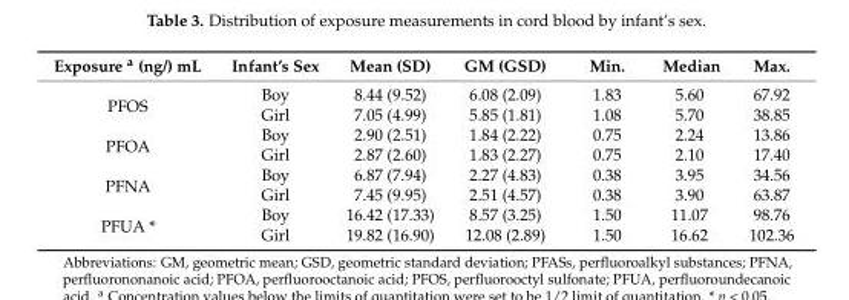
<table><thead><tr><td>Exposure <sup>a</sup> (ng/) mL</td><td>Infant’s Sex</td><td>Mean (SD)</td><td>GM (GSD)</td><td>Min.</td><td>Median</td><td>Max.</td></tr></thead><tbody><tr><td rowspan="2">PFOS</td><td>Boy</td><td>8.44 (9.52)</td><td>6.08 (2.09)</td><td>1.83</td><td>5.60</td><td>67.92</td></tr><tr><td>Girl</td><td>7.05 (4.99)</td><td>5.85 (1.81)</td><td>1.08</td><td>5.70</td><td>38.85</td></tr><tr><td rowspan="2">PFOA</td><td>Boy</td><td>2.90 (2.51)</td><td>1.84 (2.22)</td><td>0.75</td><td>2.24</td><td>13.86</td></tr><tr><td>Girl</td><td>2.87 (2.60)</td><td>1.83 (2.27)</td><td>0.75</td><td>2.10</td><td>17.40</td></tr><tr><td rowspan="2">PFNA</td><td>Boy</td><td>6.87 (7.94)</td><td>2.27 (4.83)</td><td>0.38</td><td>3.95</td><td>34.56</td></tr><tr><td>Girl</td><td>7.45 (9.95)</td><td>2.51 (4.57)</td><td>0.38</td><td>3.90</td><td>63.87</td></tr><tr><td rowspan="2">PFUA *</td><td>Boy</td><td>16.42 (17.33)</td><td>8.57 (3.25)</td><td>1.50</td><td>11.07</td><td>98.76</td></tr><tr><td>Girl</td><td>19.82 (16.90)</td><td>12.08 (2.89)</td><td>1.50</td><td>16.62</td><td>102.36</td></tr></tbody></table>